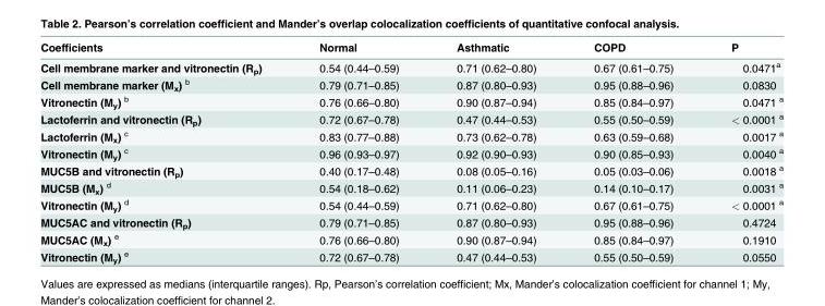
<table><thead><tr><td>Coefficients</td><td>Normal</td><td>Asthmatic</td><td>COPD</td><td>P</td></tr></thead><tbody><tr><td>Cell membrane marker and vitronectin (R<sub>p</sub>)</td><td>0.54 (0.44–0.59)</td><td>0.71 (0.62–0.80)</td><td>0.67 (0.61–0.75)</td><td>0.0471<sup>a</sup></td></tr><tr><td>Cell membrane marker (M<sub>x</sub>) <sup>b</sup></td><td>0.79 (0.71–0.85)</td><td>0.87 (0.80–0.93)</td><td>0.95 (0.88–0.96)</td><td>0.0830</td></tr><tr><td>Vitronectin (M<sub>y</sub>) <sup>b</sup></td><td>0.76 (0.66–0.80)</td><td>0.90 (0.87–0.94)</td><td>0.85 (0.84–0.97)</td><td>0.0471 <sup>a</sup></td></tr><tr><td>Lactoferrin and vitronectin (R<sub>p</sub>)</td><td>0.72 (0.67–0.78)</td><td>0.47 (0.44–0.53)</td><td>0.55 (0.50–0.59)</td><td>&lt; 0.0001 <sup>a</sup></td></tr><tr><td>Lactoferrin (M<sub>x</sub>) <sup>c</sup></td><td>0.83 (0.77–0.88)</td><td>0.73 (0.62–0.78)</td><td>0.63 (0.59–0.68)</td><td>0.0017 <sup>a</sup></td></tr><tr><td>Vitronectin (M<sub>y</sub>) <sup>c</sup></td><td>0.96 (0.93–0.97)</td><td>0.92 (0.90–0.93)</td><td>0.90 (0.85–0.93)</td><td>0.0040 <sup>a</sup></td></tr><tr><td>MUC5B and vitronectin (R<sub>p</sub>)</td><td>0.40 (0.17–0.48)</td><td>0.08 (0.05–0.16)</td><td>0.05 (0.03–0.06)</td><td>0.0018 <sup>a</sup></td></tr><tr><td>MUC5B (M<sub>x</sub>) <sup>d</sup></td><td>0.54 (0.18–0.62)</td><td>0.11 (0.06–0.23)</td><td>0.14 (0.10–0.17)</td><td>0.0031 <sup>a</sup></td></tr><tr><td>Vitronectin (M<sub>y</sub>) <sup>d</sup></td><td>0.54 (0.44–0.59)</td><td>0.71 (0.62–0.80)</td><td>0.67 (0.61–0.75)</td><td>&lt; 0.0001 <sup>a</sup></td></tr><tr><td>MUC5AC and vitronectin (R<sub>p</sub>)</td><td>0.79 (0.71–0.85)</td><td>0.87 (0.80–0.93)</td><td>0.95 (0.88–0.96)</td><td>0.4724</td></tr><tr><td>MUC5AC (M<sub>x</sub>) <sup>e</sup></td><td>0.76 (0.66–0.80)</td><td>0.90 (0.87–0.94)</td><td>0.85 (0.84–0.97)</td><td>0.1910</td></tr><tr><td>Vitronectin (M<sub>y</sub>) <sup>e</sup></td><td>0.72 (0.67–0.78)</td><td>0.47 (0.44–0.53)</td><td>0.55 (0.50–0.59)</td><td>0.0550</td></tr></tbody></table>